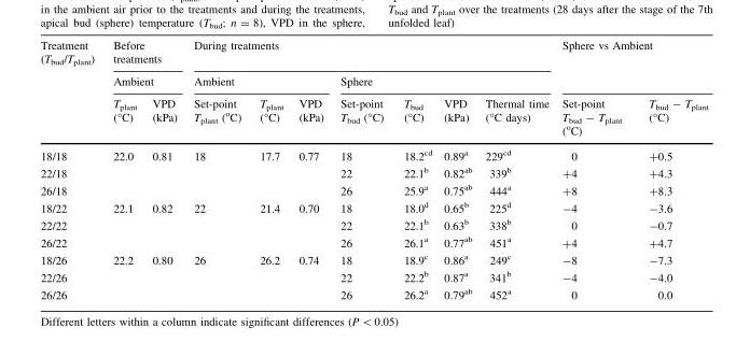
<table><thead><tr><td rowspan="3">Treatment (T<sub>bud</sub>/T<sub>plant</sub>)</td><td rowspan="2" colspan="2">Before treatments Ambient</td><td colspan="7">During treatments</td><td rowspan="2" colspan="2">Sphere vs Ambient</td></tr><tr><td colspan="3">Ambient</td><td colspan="4">Sphere</td></tr><tr><td>T<sub>plant</sub> (°C)</td><td>VPD (kPa)</td><td>Set-point T<sub>plant</sub> (<sup>o</sup>C)</td><td>T<sub>plant</sub> (°C)</td><td>VPD (kPa)</td><td>Set-point T<sub>bud</sub> (°C)</td><td>T<sub>bud</sub> (°C)</td><td>VPD (kPa)</td><td>Thermal time (°C days)</td><td>Set-point T<sub>bud</sub> - T<sub>plant</sub> (<sup>o</sup>C)</td><td>T<sub>bud</sub> - T<sub>plant</sub> (°C)</td></tr></thead><tbody><tr><td>18/18</td><td rowspan="3">22.0</td><td rowspan="3">0.81</td><td rowspan="3">18</td><td rowspan="3">17.7</td><td rowspan="3">0.77</td><td>18</td><td>18.2<sup>cd</sup></td><td>0.89<sup>a</sup></td><td>229<sup>cd</sup></td><td>0</td><td>+0.5</td></tr><tr><td>22/18</td><td>22</td><td>22.1<sup>b</sup></td><td>0.82<sup>ab</sup></td><td>339<sup>b</sup></td><td>+4</td><td>+4.3</td></tr><tr><td>26/18</td><td>26</td><td>25.9<sup>a</sup></td><td>0.75<sup>ab</sup></td><td>444<sup>a</sup></td><td>+8</td><td>+8.3</td></tr><tr><td>18/22</td><td rowspan="3">22.1</td><td rowspan="3">0.82</td><td rowspan="3">22</td><td rowspan="3">21.4</td><td rowspan="3">0.70</td><td>18</td><td>18.0<sup>d</sup></td><td>0.65<sup>b</sup></td><td>225<sup>d</sup></td><td>-4</td><td>-3.6</td></tr><tr><td>22/22</td><td>22</td><td>22.1<sup>b</sup></td><td>0.63<sup>b</sup></td><td>338<sup>b</sup></td><td>0</td><td>-0.7</td></tr><tr><td>26/22</td><td>26</td><td>26.1<sup>a</sup></td><td>0.77<sup>ab</sup></td><td>451<sup>a</sup></td><td>+4</td><td>+4.7</td></tr><tr><td>18/26</td><td rowspan="3">22.2</td><td rowspan="3">0.80</td><td rowspan="3">26</td><td rowspan="3">26.2</td><td rowspan="3">0.74</td><td>18</td><td>18.9<sup>c</sup></td><td>0.86<sup>a</sup></td><td>249<sup>c</sup></td><td>-8</td><td>-7.3</td></tr><tr><td>22/26</td><td>22</td><td>22.2<sup>b</sup></td><td>0.87<sup>a</sup></td><td>341<sup>b</sup></td><td>-4</td><td>-4.0</td></tr><tr><td>26/26</td><td>26</td><td>26.2<sup>a</sup></td><td>0.79<sup>ab</sup></td><td>452<sup>a</sup></td><td>0</td><td>0.0</td></tr></tbody></table>